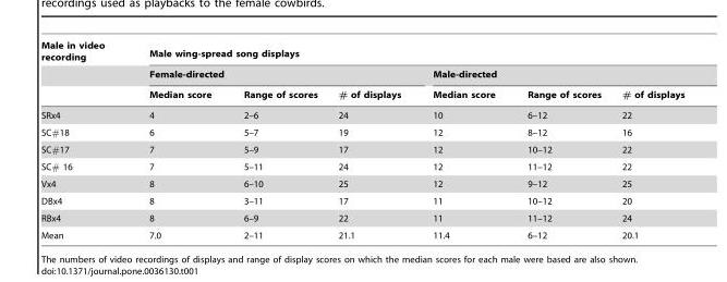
<table><thead><tr><td rowspan="3">Male in video recording</td><td colspan="6">Male wing-spread song displays</td></tr><tr><td colspan="3">Female-directed</td><td colspan="3">Male-directed</td></tr><tr><td>Median score</td><td>Range of scores</td><td># of displays</td><td>Median score</td><td>Range of scores</td><td># of displays</td></tr></thead><tbody><tr><td>SRx4</td><td>4</td><td>2–6</td><td>24</td><td>10</td><td>6–12</td><td>22</td></tr><tr><td>SC#18</td><td>6</td><td>5–7</td><td>19</td><td>12</td><td>8–12</td><td>16</td></tr><tr><td>SC#17</td><td>7</td><td>5–9</td><td>17</td><td>12</td><td>10–12</td><td>22</td></tr><tr><td>SC# 16</td><td>7</td><td>5–11</td><td>24</td><td>12</td><td>11–12</td><td>22</td></tr><tr><td>Vx4</td><td>8</td><td>6–10</td><td>25</td><td>12</td><td>9–12</td><td>25</td></tr><tr><td>DBx4</td><td>8</td><td>3–11</td><td>17</td><td>11</td><td>10–12</td><td>20</td></tr><tr><td>RBx4</td><td>8</td><td>6–9</td><td>22</td><td>11</td><td>11–12</td><td>24</td></tr><tr><td>Mean</td><td>7.0</td><td>2–11</td><td>21.1</td><td>11.4</td><td>6–12</td><td>20.1</td></tr></tbody></table>